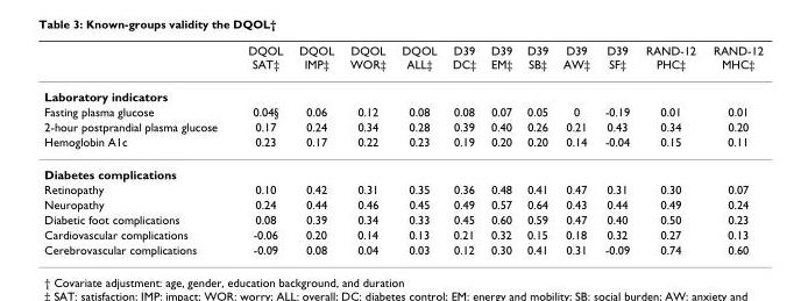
<table><thead><tr><td></td><td>DQOL SAT‡</td><td>DQOL IMP‡</td><td>DQOL WOR‡</td><td>DQOL ALL‡</td><td>D39 DC‡</td><td>D39 EM‡</td><td>D39 SB‡</td><td>D39 AW‡</td><td>D39 SF‡</td><td>RAND-12 PHC‡</td><td>RAND-12 MHC‡</td></tr></thead><tbody><tr><td colspan="12">Laboratory indicators</td></tr><tr><td>Fasting plasma glucose</td><td>0.04§</td><td>0.06</td><td>0.12</td><td>0.08</td><td>0.08</td><td>0.07</td><td>0.05</td><td>0</td><td>-0.19</td><td>0.01</td><td>0.01</td></tr><tr><td>2-hour postprandial plasma glucose</td><td>0.17</td><td>0.24</td><td>0.34</td><td>0.28</td><td>0.39</td><td>0.40</td><td>0.26</td><td>0.21</td><td>0.43</td><td>0.34</td><td>0.20</td></tr><tr><td>Hemoglobin A1c</td><td>0.23</td><td>0.17</td><td>0.22</td><td>0.23</td><td>0.19</td><td>0.20</td><td>0.20</td><td>0.14</td><td>-0.04</td><td>0.15</td><td>0.11</td></tr><tr><td colspan="12">Diabetes complications</td></tr><tr><td>Retinopathy</td><td>0.10</td><td>0.42</td><td>0.31</td><td>0.35</td><td>0.36</td><td>0.48</td><td>0.41</td><td>0.47</td><td>0.31</td><td>0.30</td><td>0.07</td></tr><tr><td>Neuropathy</td><td>0.24</td><td>0.44</td><td>0.46</td><td>0.45</td><td>0.49</td><td>0.57</td><td>0.64</td><td>0.43</td><td>0.44</td><td>0.49</td><td>0.24</td></tr><tr><td>Diabetic foot complications</td><td>0.08</td><td>0.39</td><td>0.34</td><td>0.33</td><td>0.45</td><td>0.60</td><td>0.59</td><td>0.47</td><td>0.40</td><td>0.50</td><td>0.23</td></tr><tr><td>Cardiovascular complications</td><td>-0.06</td><td>0.20</td><td>0.14</td><td>0.13</td><td>0.21</td><td>0.32</td><td>0.15</td><td>0.18</td><td>0.32</td><td>0.27</td><td>0.13</td></tr><tr><td>Cerebrovascular complications</td><td>-0.09</td><td>0.08</td><td>0.04</td><td>0.03</td><td>0.12</td><td>0.30</td><td>0.41</td><td>0.31</td><td>-0.09</td><td>0.74</td><td>0.60</td></tr></tbody></table>